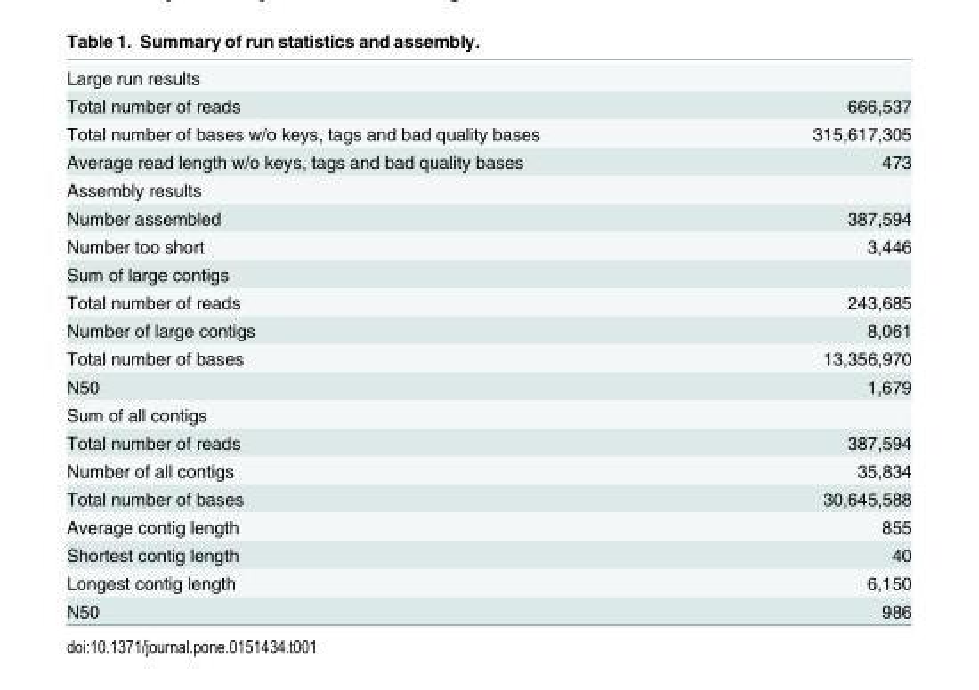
<table><tbody><tr><td colspan="2">Large run results</td></tr><tr><td>Total number of reads</td><td>666,537</td></tr><tr><td>Total number of bases w/o keys, tags and bad quality bases</td><td>315,617,305</td></tr><tr><td>Average read length w/o keys, tags and bad quality bases</td><td>473</td></tr><tr><td colspan="2">Assembly results</td></tr><tr><td>Number assembled</td><td>387,594</td></tr><tr><td>Number too short</td><td>3,446</td></tr><tr><td colspan="2">Sum of large contigs</td></tr><tr><td>Total number of reads</td><td>243,685</td></tr><tr><td>Number of large contigs</td><td>8,061</td></tr><tr><td>Total number of bases</td><td>13,356,970</td></tr><tr><td>N50</td><td>1,679</td></tr><tr><td colspan="2">Sum of all contigs</td></tr><tr><td>Total number of reads</td><td>387,594</td></tr><tr><td>Number of all contigs</td><td>35,834</td></tr><tr><td>Total number of bases</td><td>30,645,588</td></tr><tr><td>Average contig length</td><td>855</td></tr><tr><td>Shortest contig length</td><td>40</td></tr><tr><td>Longest contig length</td><td>6,150</td></tr><tr><td>N50</td><td>986</td></tr></tbody></table>